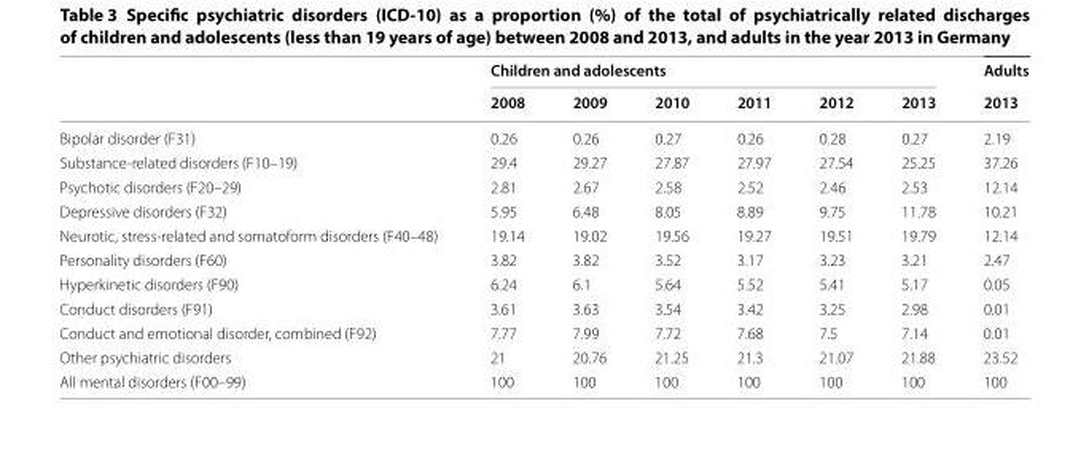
<table><thead><tr><td rowspan="2"></td><td colspan="6">Children and adolescents</td><td rowspan="2">Adults 2013</td></tr><tr><td>2008</td><td>2009</td><td>2010</td><td>2011</td><td>2012</td><td>2013</td></tr></thead><tbody><tr><td>Bipolar disorder (F31)</td><td>0.26</td><td>0.26</td><td>0.27</td><td>0.26</td><td>0.28</td><td>0.27</td><td>2.19</td></tr><tr><td>Substance-related disorders (F10–19)</td><td>29.4</td><td>29.27</td><td>27.87</td><td>27.97</td><td>27.54</td><td>25.25</td><td>37.26</td></tr><tr><td>Psychotic disorders (F20–29)</td><td>2.81</td><td>2.67</td><td>2.58</td><td>2.52</td><td>2.46</td><td>2.53</td><td>12.14</td></tr><tr><td>Depressive disorders (F32)</td><td>5.95</td><td>6.48</td><td>8.05</td><td>8.89</td><td>9.75</td><td>11.78</td><td>10.21</td></tr><tr><td>Neurotic, stress-related and somatoform disorders (F40–48)</td><td>19.14</td><td>19.02</td><td>19.56</td><td>19.27</td><td>19.51</td><td>19.79</td><td>12.14</td></tr><tr><td>Personality disorders (F60)</td><td>3.82</td><td>3.82</td><td>3.52</td><td>3.17</td><td>3.23</td><td>3.21</td><td>2.47</td></tr><tr><td>Hyperkinetic disorders (F90)</td><td>6.24</td><td>6.1</td><td>5.64</td><td>5.52</td><td>5.41</td><td>5.17</td><td>0.05</td></tr><tr><td>Conduct disorders (F91)</td><td>3.61</td><td>3.63</td><td>3.54</td><td>3.42</td><td>3.25</td><td>2.98</td><td>0.01</td></tr><tr><td>Conduct and emotional disorder, combined (F92)</td><td>7.77</td><td>7.99</td><td>7.72</td><td>7.68</td><td>7.5</td><td>7.14</td><td>0.01</td></tr><tr><td>Other psychiatric disorders</td><td>21</td><td>20.76</td><td>21.25</td><td>21.3</td><td>21.07</td><td>21.88</td><td>23.52</td></tr><tr><td>All mental disorders (F00–99)</td><td>100</td><td>100</td><td>100</td><td>100</td><td>100</td><td>100</td><td>100</td></tr></tbody></table>